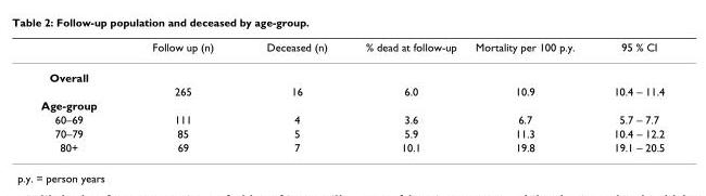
<table><thead><tr><td></td><td>Follow up (n)</td><td>Deceased (n)</td><td>% dead at follow-up</td><td>Mortality per 100 p.y.</td><td>95 % CI</td></tr></thead><tbody><tr><td colspan="6">Overall</td></tr><tr><td></td><td>265</td><td>16</td><td>6.0</td><td>10.9</td><td>10.4 – 11.4</td></tr><tr><td colspan="6">Age-group</td></tr><tr><td>60–69</td><td>111</td><td>4</td><td>3.6</td><td>6.7</td><td>5.7 – 7.7</td></tr><tr><td>70–79</td><td>85</td><td>5</td><td>5.9</td><td>11.3</td><td>10.4 – 12.2</td></tr><tr><td>80+</td><td>69</td><td>7</td><td>10.1</td><td>19.8</td><td>19.1 – 20.5</td></tr></tbody></table>